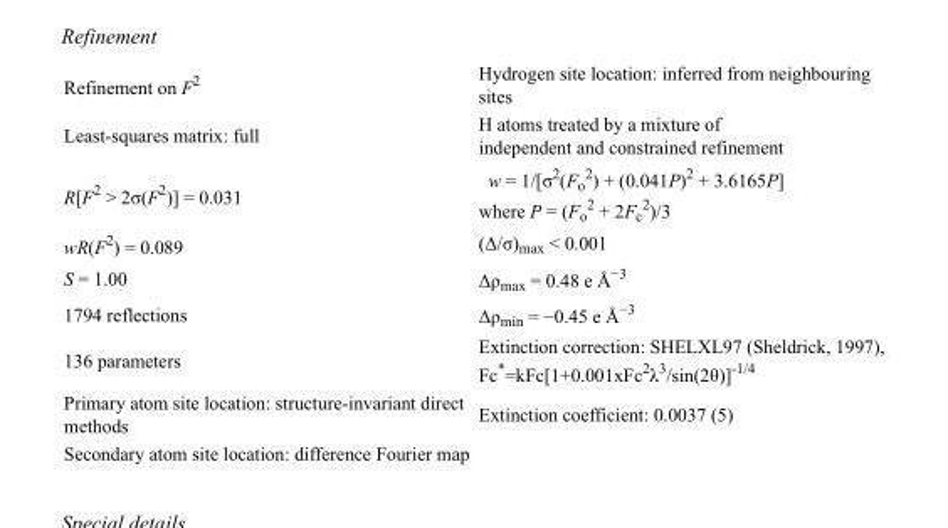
<table><tbody><tr><td>Refinement on F<sup>2</sup></td><td>Hydrogen site location: inferred from neighbouring sites</td></tr><tr><td>Least-squares matrix: full</td><td>H atoms treated by a mixture of independent and constrained refinement</td></tr><tr><td>R[F<sup>2</sup> &gt; 2σ(F<sup>2</sup>)] = 0.031</td><td>w = 1/[σ<sup>2</sup>(F<sub>o</sub> <sup>2</sup>) + (0.041P)<sup>2</sup> + 3.6165P] where P = (F<sub>o</sub> <sup>2</sup> + 2F<sub>c</sub> <sup>2</sup>)/3</td></tr><tr><td>wR(F<sup>2</sup>) = 0.089</td><td>(Δ/σ)<sub>max</sub> &lt; 0.001</td></tr><tr><td>S = 1.00</td><td>Δρ<sub>max</sub> = 0.48 e Å<sup>−3</sup></td></tr><tr><td>1794 reflections</td><td>Δρ<sub>min</sub> = −0.45 e Å<sup>−3</sup></td></tr><tr><td>136 parameters</td><td>Extinction correction: SHELXL97 (Sheldrick, 1997), Fc*=kFc[1+0.001xFc<sup>2</sup>λ<sup>3</sup>/sin(2θ)]<sup>-1/4</sup></td></tr><tr><td>Primary atom site location: structure-invariant direct methods</td><td>Extinction coefficient: 0.0037 (5)</td></tr><tr><td>Secondary atom site location: difference Fourier map</td><td></td></tr></tbody></table>